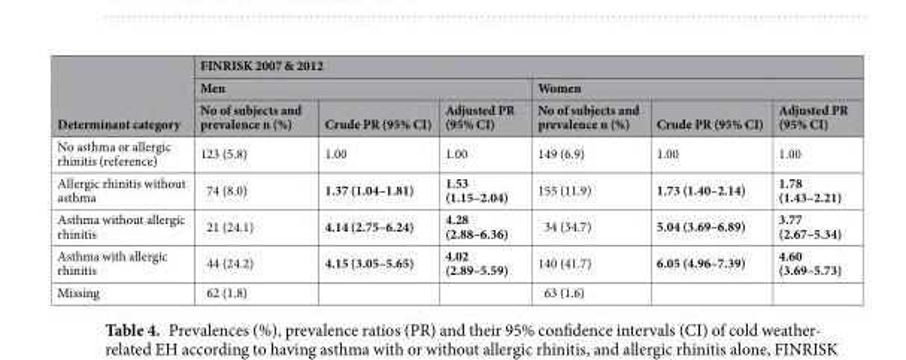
<table><thead><tr><td rowspan="3">Determinant category</td><td colspan="6">FINRISK 2007 &amp; 2012</td></tr><tr><td colspan="3">Men</td><td colspan="3">Women</td></tr><tr><td>No of subjects and prevalence n (%)</td><td>Crude PR (95% CI)</td><td>Adjusted PR (95% CI)</td><td>No of subjects and prevalence n (%)</td><td>Crude PR (95% CI)</td><td>Adjusted PR (95% CI)</td></tr></thead><tbody><tr><td>No asthma or allergic rhinitis (reference)</td><td>123 (5.8)</td><td>1.00</td><td>1.00</td><td>149 (6.9)</td><td>1.00</td><td>1.00</td></tr><tr><td>Allergic rhinitis without asthma</td><td>74 (8.0)</td><td>1.37 (1.04–1.81)</td><td>1.53 (1.15–2.04)</td><td>155 (11.9)</td><td>1.73 (1.40–2.14)</td><td>1.78 (1.43–2.21)</td></tr><tr><td>Asthma without allergic rhinitis</td><td>21 (24.1)</td><td>4.14 (2.75–6.24)</td><td>4.28 (2.88–6.36)</td><td>34 (34.7)</td><td>5.04 (3.69–6.89)</td><td>3.77 (2.67–5.34)</td></tr><tr><td>Asthma with allergic rhinitis</td><td>44 (24.2)</td><td>4.15 (3.05–5.65)</td><td>4.02 (2.89–5.59)</td><td>140 (41.7)</td><td>6.05 (4.96–7.39)</td><td>4.60 (3.69–5.73)</td></tr><tr><td>Missing</td><td>62 (1.8)</td><td></td><td></td><td>63 (1.6)</td><td></td><td></td></tr></tbody></table>